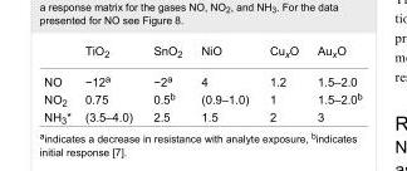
<table><thead><tr><td></td><td>TiO<sub>2</sub></td><td>SnO<sub>2</sub></td><td>NiO</td><td>Cu<sub>x</sub>O</td><td>Au<sub>x</sub>O</td></tr></thead><tbody><tr><td>NO</td><td>−12<sup>a</sup></td><td>−2<sup>a</sup></td><td>4</td><td>1.2</td><td>1.5–2.0</td></tr><tr><td>NO<sub>2</sub></td><td>0.75</td><td>0.5<sup>b</sup></td><td>(0.9–1.0)</td><td>1</td><td>1.5–2.0<sup>b</sup></td></tr><tr><td>NH<sub>3</sub>*</td><td>(3.5–4.0)</td><td>2.5</td><td>1.5</td><td>2</td><td>3</td></tr></tbody></table>